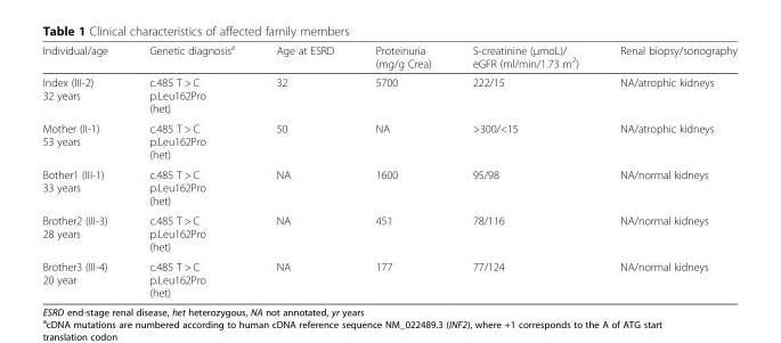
<table><thead><tr><td>Individual/age</td><td>Genetic diagnosis<sup>a</sup></td><td>Age at ESRD</td><td>Proteinuria (mg/g Crea)</td><td>S-creatinine (μmoL)/ eGFR (ml/min/1.73 m<sup>2</sup>)</td><td>Renal biopsy/sonography</td></tr></thead><tbody><tr><td>Index (III-2) 32 years</td><td>c.485 T &gt; C p.Leu162Pro (het)</td><td>32</td><td>5700</td><td>222/15</td><td>NA/atrophic kidneys</td></tr><tr><td>Mother (II-1) 53 years</td><td>c.485 T &gt; C p.Leu162Pro (het)</td><td>50</td><td>NA</td><td>&gt;300/&lt;15</td><td>NA/atrophic kidneys</td></tr><tr><td>Bother1 (III-1) 33 years</td><td>c.485 T &gt; C p.Leu162Pro (het)</td><td>NA</td><td>1600</td><td>95/98</td><td>NA/normal kidneys</td></tr><tr><td>Brother2 (III-3) 28 years</td><td>c.485 T &gt; C p.Leu162Pro (het)</td><td>NA</td><td>451</td><td>78/116</td><td>NA/normal kidneys</td></tr><tr><td>Brother3 (III-4) 20 year</td><td>c.485 T &gt; C p.Leu162Pro (het)</td><td>NA</td><td>177</td><td>77/124</td><td>NA/normal kidneys</td></tr></tbody></table>